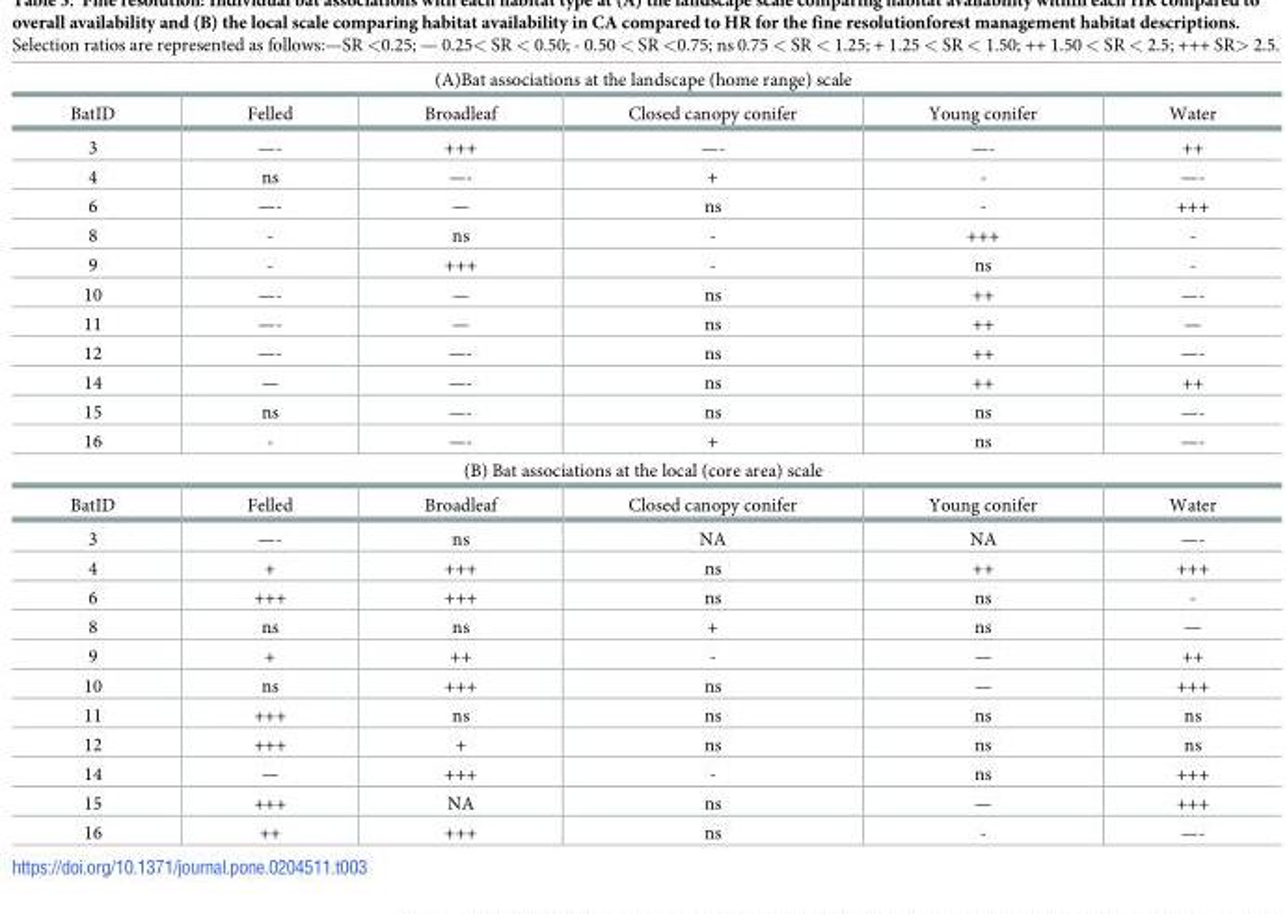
<table><tbody><tr><td colspan="6">(A)Bat associations at the landscape (home range) scale</td></tr><tr><td>BatID</td><td>Felled</td><td>Broadleaf</td><td>Closed canopy conifer</td><td>Young conifer</td><td>Water</td></tr><tr><td>3</td><td>—-</td><td>+++</td><td>—-</td><td>—-</td><td>++</td></tr><tr><td>4</td><td>ns</td><td>—-</td><td>+</td><td>-</td><td>—-</td></tr><tr><td>6</td><td>—-</td><td>—</td><td>ns</td><td>-</td><td>+++</td></tr><tr><td>8</td><td>-</td><td>ns</td><td>-</td><td>+++</td><td>-</td></tr><tr><td>9</td><td>-</td><td>+++</td><td>-</td><td>ns</td><td>-</td></tr><tr><td>10</td><td>—-</td><td>—</td><td>ns</td><td>++</td><td>—-</td></tr><tr><td>11</td><td>—-</td><td>—</td><td>ns</td><td>++</td><td>—</td></tr><tr><td>12</td><td>—-</td><td>—-</td><td>ns</td><td>++</td><td>—-</td></tr><tr><td>14</td><td>—</td><td>—-</td><td>ns</td><td>++</td><td>++</td></tr><tr><td>15</td><td>ns</td><td>—-</td><td>ns</td><td>ns</td><td>—-</td></tr><tr><td>16</td><td>-</td><td>—-</td><td>+</td><td>ns</td><td>—-</td></tr><tr><td colspan="6">(B) Bat associations at the local (core area) scale</td></tr><tr><td>BatID</td><td>Felled</td><td>Broadleaf</td><td>Closed canopy conifer</td><td>Young conifer</td><td>Water</td></tr><tr><td>3</td><td>—-</td><td>ns</td><td>NA</td><td>NA</td><td>—-</td></tr><tr><td>4</td><td>+</td><td>+++</td><td>ns</td><td>++</td><td>+++</td></tr><tr><td>6</td><td>+++</td><td>+++</td><td>ns</td><td>ns</td><td>-</td></tr><tr><td>8</td><td>ns</td><td>ns</td><td>+</td><td>ns</td><td>—</td></tr><tr><td>9</td><td>+</td><td>++</td><td>-</td><td>—</td><td>++</td></tr><tr><td>10</td><td>ns</td><td>+++</td><td>ns</td><td>—</td><td>+++</td></tr><tr><td>11</td><td>+++</td><td>ns</td><td>ns</td><td>ns</td><td>ns</td></tr><tr><td>12</td><td>+++</td><td>+</td><td>ns</td><td>ns</td><td>ns</td></tr><tr><td>14</td><td>—</td><td>+++</td><td>-</td><td>ns</td><td>+++</td></tr><tr><td>15</td><td>+++</td><td>NA</td><td>ns</td><td>—</td><td>+++</td></tr><tr><td>16</td><td>++</td><td>+++</td><td>ns</td><td>-</td><td>—-</td></tr></tbody></table>